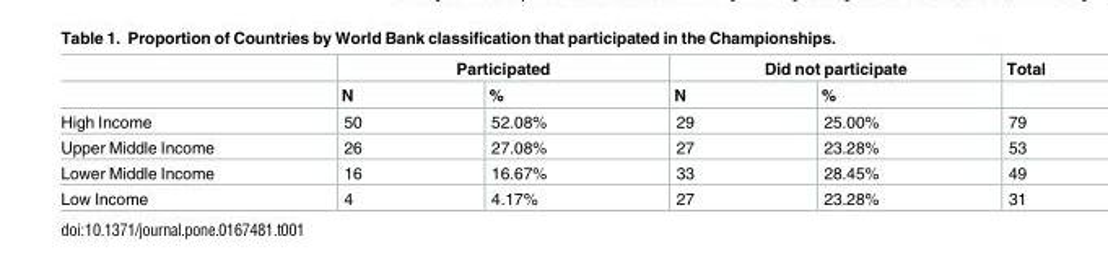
<table><thead><tr><td rowspan="2"></td><td colspan="2">Participated</td><td colspan="2">Did not participate</td><td rowspan="2">Total</td></tr><tr><td>N</td><td>%</td><td>N</td><td>%</td></tr></thead><tbody><tr><td>High Income</td><td>50</td><td>52.08%</td><td>29</td><td>25.00%</td><td>79</td></tr><tr><td>Upper Middle Income</td><td>26</td><td>27.08%</td><td>27</td><td>23.28%</td><td>53</td></tr><tr><td>Lower Middle Income</td><td>16</td><td>16.67%</td><td>33</td><td>28.45%</td><td>49</td></tr><tr><td>Low Income</td><td>4</td><td>4.17%</td><td>27</td><td>23.28%</td><td>31</td></tr></tbody></table>